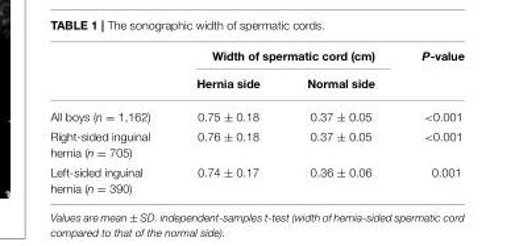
<table><thead><tr><td rowspan="2"></td><td colspan="2">Width of spermatic cord (cm)</td><td rowspan="2">P-value</td></tr><tr><td>Hernia side</td><td>Normal side</td></tr></thead><tbody><tr><td>All boys (n = 1,162)</td><td>0.75 ± 0.18</td><td>0.37 ± 0.05</td><td>&lt;0.001</td></tr><tr><td>Right-sided inguinal hernia (n = 705)</td><td>0.76 ± 0.18</td><td>0.37 ± 0.05</td><td>&lt;0.001</td></tr><tr><td>Left-sided inguinal hernia (n = 390)</td><td>0.74 ± 0.17</td><td>0.36 ± 0.06</td><td>0.001</td></tr></tbody></table>